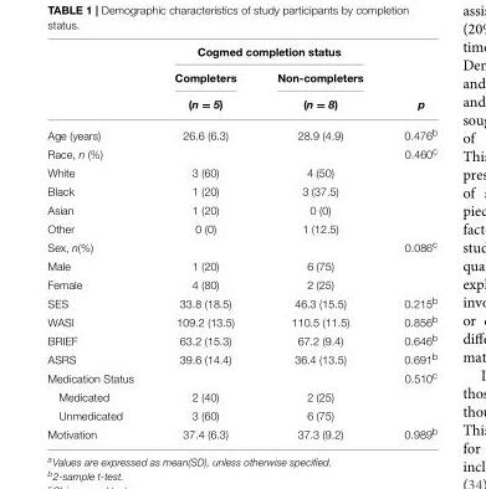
<table><thead><tr><td rowspan="3"></td><td colspan="2">Cogmed completion status</td><td rowspan="3">p</td></tr><tr><td rowspan="2">Completers (n = 5)</td><td rowspan="2">Non-completers (n = 8)</td></tr><tr></tr></thead><tbody><tr><td>Age (years)</td><td>26.6 (6.3)</td><td>28.9 (4.9)</td><td>0.476<sup>b</sup></td></tr><tr><td>Race, n (%)</td><td></td><td></td><td>0.460<sup>c</sup></td></tr><tr><td>White</td><td>3 (60)</td><td>4 (50)</td><td></td></tr><tr><td>Black</td><td>1 (20)</td><td>3 (37.5)</td><td></td></tr><tr><td>Asian</td><td>1 (20)</td><td>0 (0)</td><td></td></tr><tr><td>Other</td><td>0 (0)</td><td>1 (12.5)</td><td></td></tr><tr><td>Sex, n(%)</td><td></td><td></td><td>0.086<sup>c</sup></td></tr><tr><td>Male</td><td>1 (20)</td><td>6 (75)</td><td></td></tr><tr><td>Female</td><td>4 (80)</td><td>2 (25)</td><td></td></tr><tr><td>SES</td><td>33.8 (18.5)</td><td>46.3 (15.5)</td><td>0.215<sup>b</sup></td></tr><tr><td>WASI</td><td>109.2 (13.5)</td><td>110.5 (11.5)</td><td>0.856<sup>b</sup></td></tr><tr><td>BRIEF</td><td>63.2 (15.3)</td><td>67.2 (9.4)</td><td>0.646<sup>b</sup></td></tr><tr><td>ASRS</td><td>39.6 (14.4)</td><td>36.4 (13.5)</td><td>0.691<sup>b</sup></td></tr><tr><td>Medication Status</td><td></td><td></td><td>0.510<sup>c</sup></td></tr><tr><td>Medicated</td><td>2 (40)</td><td>2 (25)</td><td></td></tr><tr><td>Unmedicated</td><td>3 (60)</td><td>6 (75)</td><td></td></tr><tr><td>Motivation</td><td>37.4 (6.3)</td><td>37.3 (9.2)</td><td>0.989<sup>b</sup></td></tr></tbody></table>